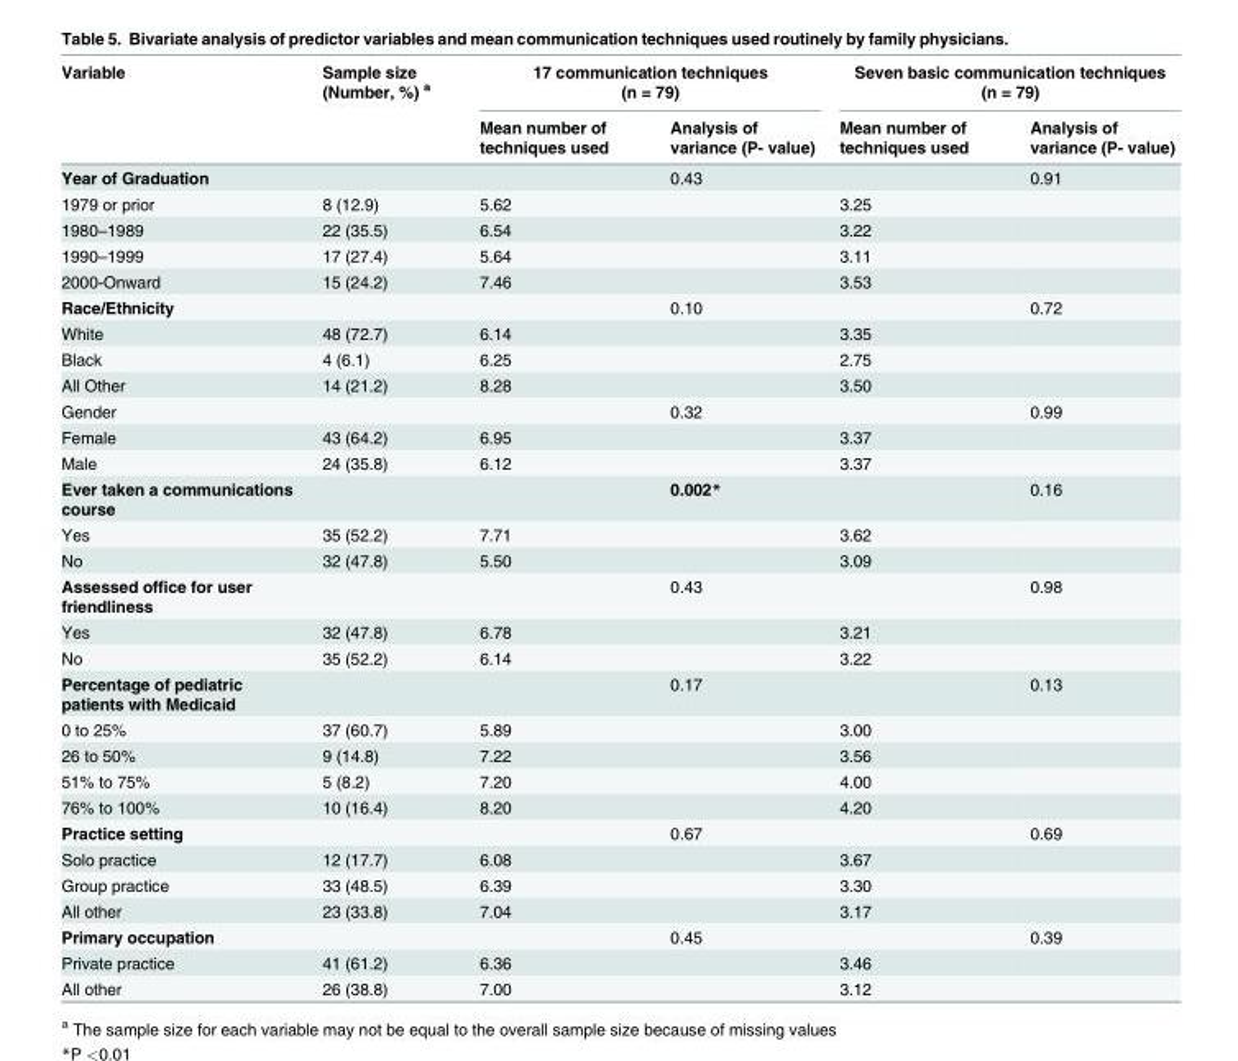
<table><thead><tr><td rowspan="2">Variable</td><td rowspan="2">Sample size (Number, %) <sup>a</sup></td><td colspan="2">17 communication techniques (n = 79)</td><td colspan="2">Seven basic communication techniques (n = 79)</td></tr><tr><td>Mean number of techniques used</td><td>Analysis of variance (P- value)</td><td>Mean number of techniques used</td><td>Analysis of variance (P- value)</td></tr></thead><tbody><tr><td>Year of Graduation</td><td></td><td></td><td>0.43</td><td></td><td>0.91</td></tr><tr><td>1979 or prior</td><td>8 (12.9)</td><td>5.62</td><td></td><td>3.25</td><td></td></tr><tr><td>1980–1989</td><td>22 (35.5)</td><td>6.54</td><td></td><td>3.22</td><td></td></tr><tr><td>1990–1999</td><td>17 (27.4)</td><td>5.64</td><td></td><td>3.11</td><td></td></tr><tr><td>2000-Onward</td><td>15 (24.2)</td><td>7.46</td><td></td><td>3.53</td><td></td></tr><tr><td>Race/Ethnicity</td><td></td><td></td><td>0.10</td><td></td><td>0.72</td></tr><tr><td>White</td><td>48 (72.7)</td><td>6.14</td><td></td><td>3.35</td><td></td></tr><tr><td>Black</td><td>4 (6.1)</td><td>6.25</td><td></td><td>2.75</td><td></td></tr><tr><td>All Other</td><td>14 (21.2)</td><td>8.28</td><td></td><td>3.50</td><td></td></tr><tr><td>Gender</td><td></td><td></td><td>0.32</td><td></td><td>0.99</td></tr><tr><td>Female</td><td>43 (64.2)</td><td>6.95</td><td></td><td>3.37</td><td></td></tr><tr><td>Male</td><td>24 (35.8)</td><td>6.12</td><td></td><td>3.37</td><td></td></tr><tr><td>Ever taken a communications course</td><td></td><td></td><td>0.002*</td><td></td><td>0.16</td></tr><tr><td>Yes</td><td>35 (52.2)</td><td>7.71</td><td></td><td>3.62</td><td></td></tr><tr><td>No</td><td>32 (47.8)</td><td>5.50</td><td></td><td>3.09</td><td></td></tr><tr><td>Assessed office for user friendliness</td><td></td><td></td><td>0.43</td><td></td><td>0.98</td></tr><tr><td>Yes</td><td>32 (47.8)</td><td>6.78</td><td></td><td>3.21</td><td></td></tr><tr><td>No</td><td>35 (52.2)</td><td>6.14</td><td></td><td>3.22</td><td></td></tr><tr><td>Percentage of pediatric patients with Medicaid</td><td></td><td></td><td>0.17</td><td></td><td>0.13</td></tr><tr><td>0 to 25%</td><td>37 (60.7)</td><td>5.89</td><td></td><td>3.00</td><td></td></tr><tr><td>26 to 50%</td><td>9 (14.8)</td><td>7.22</td><td></td><td>3.56</td><td></td></tr><tr><td>51% to 75%</td><td>5 (8.2)</td><td>7.20</td><td></td><td>4.00</td><td></td></tr><tr><td>76% to 100%</td><td>10 (16.4)</td><td>8.20</td><td></td><td>4.20</td><td></td></tr><tr><td>Practice setting</td><td></td><td></td><td>0.67</td><td></td><td>0.69</td></tr><tr><td>Solo practice</td><td>12 (17.7)</td><td>6.08</td><td></td><td>3.67</td><td></td></tr><tr><td>Group practice</td><td>33 (48.5)</td><td>6.39</td><td></td><td>3.30</td><td></td></tr><tr><td>All other</td><td>23 (33.8)</td><td>7.04</td><td></td><td>3.17</td><td></td></tr><tr><td>Primary occupation</td><td></td><td></td><td>0.45</td><td></td><td>0.39</td></tr><tr><td>Private practice</td><td>41 (61.2)</td><td>6.36</td><td></td><td>3.46</td><td></td></tr><tr><td>All other</td><td>26 (38.8)</td><td>7.00</td><td></td><td>3.12</td><td></td></tr></tbody></table>